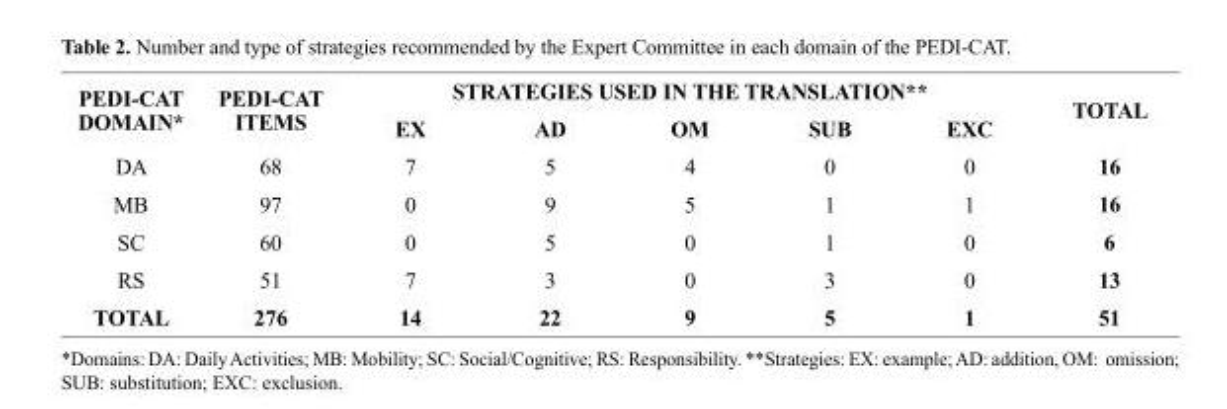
<table><thead><tr><td rowspan="2">PEDI-CAT DOMAIN*</td><td rowspan="2">PEDI-CAT ITEMS</td><td colspan="5">STRATEGIES USED IN THE TRANSLATION**</td><td rowspan="2">TOTAL</td></tr><tr><td>EX</td><td>AD</td><td>OM</td><td>SUB</td><td>EXC</td></tr></thead><tbody><tr><td>DA</td><td>68</td><td>7</td><td>5</td><td>4</td><td>0</td><td>0</td><td>16</td></tr><tr><td>MB</td><td>97</td><td>0</td><td>9</td><td>5</td><td>1</td><td>1</td><td>16</td></tr><tr><td>SC</td><td>60</td><td>0</td><td>5</td><td>0</td><td>1</td><td>0</td><td>6</td></tr><tr><td>RS</td><td>51</td><td>7</td><td>3</td><td>0</td><td>3</td><td>0</td><td>13</td></tr><tr><td>TOTAL</td><td>276</td><td>14</td><td>22</td><td>9</td><td>5</td><td>1</td><td>51</td></tr></tbody></table>